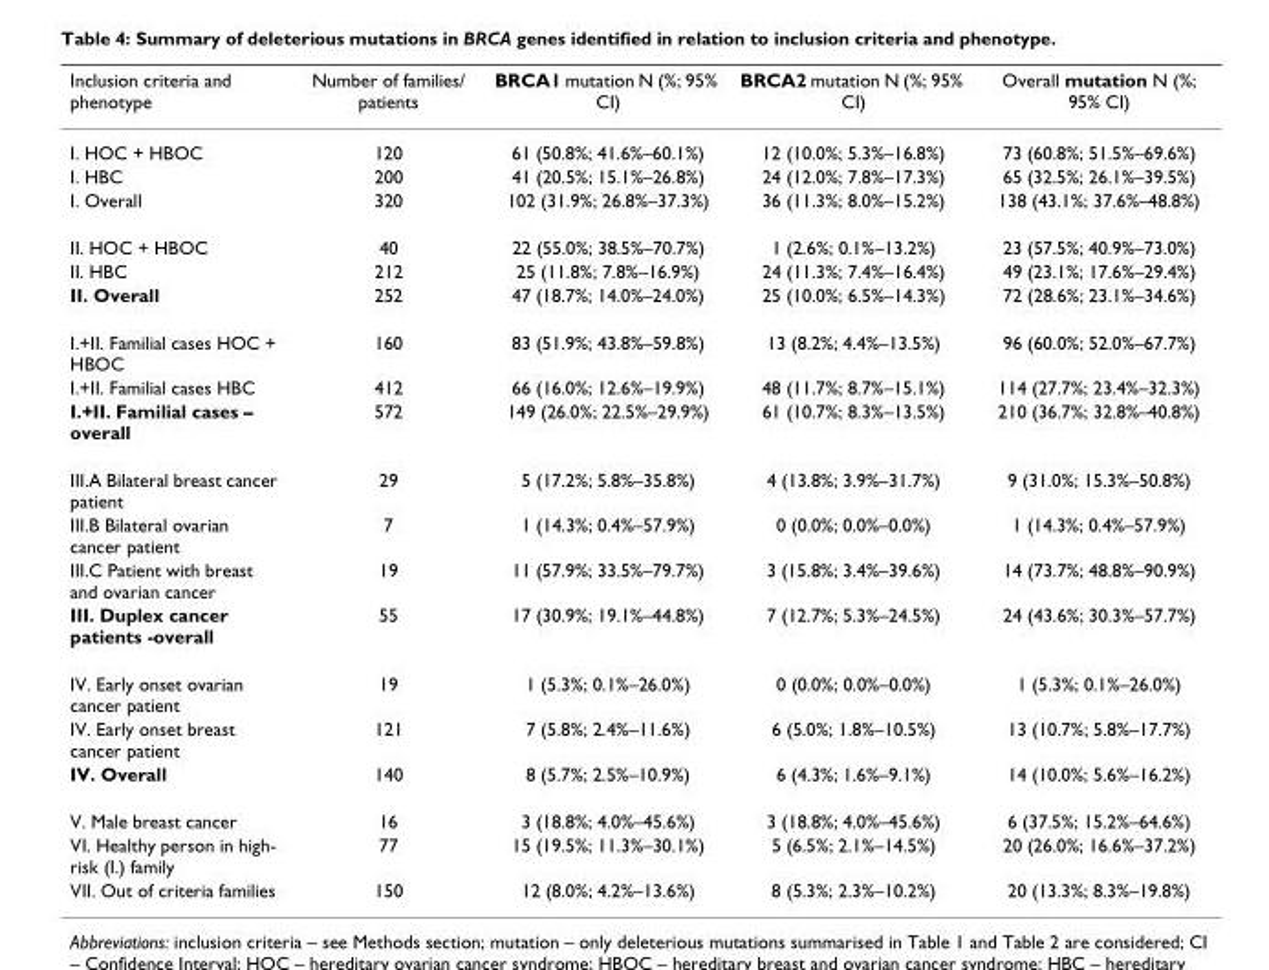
<table><thead><tr><td>Inclusion criteria and phenotype</td><td>Number of families/ patients</td><td>BRCA1 mutation N (%; 95% CI)</td><td>BRCA2 mutation N (%; 95% CI)</td><td>Overall mutation N (%; 95% CI)</td></tr></thead><tbody><tr><td>I. HOC + HBOC</td><td>120</td><td>61 (50.8%; 41.6%–60.1%)</td><td>12 (10.0%; 5.3%–16.8%)</td><td>73 (60.8%; 51.5%–69.6%)</td></tr><tr><td>I. HBC</td><td>200</td><td>41 (20.5%; 15.1%–26.8%)</td><td>24 (12.0%; 7.8%–17.3%)</td><td>65 (32.5%; 26.1%–39.5%)</td></tr><tr><td>I. Overall</td><td>320</td><td>102 (31.9%; 26.8%–37.3%)</td><td>36 (11.3%; 8.0%–15.2%)</td><td>138 (43.1%; 37.6%–48.8%)</td></tr><tr><td>II. HOC + HBOC</td><td>40</td><td>22 (55.0%; 38.5%–70.7%)</td><td>1 (2.6%; 0.1%–13.2%)</td><td>23 (57.5%; 40.9%–73.0%)</td></tr><tr><td>II. HBC</td><td>212</td><td>25 (11.8%; 7.8%–16.9%)</td><td>24 (11.3%; 7.4%–16.4%)</td><td>49 (23.1%; 17.6%–29.4%)</td></tr><tr><td>II. Overall</td><td>252</td><td>47 (18.7%; 14.0%–24.0%)</td><td>25 (10.0%; 6.5%–14.3%)</td><td>72 (28.6%; 23.1%–34.6%)</td></tr><tr><td>I.+II. Familial cases HOC + HBOC</td><td>160</td><td>83 (51.9%; 43.8%–59.8%)</td><td>13 (8.2%; 4.4%–13.5%)</td><td>96 (60.0%; 52.0%–67.7%)</td></tr><tr><td>I.+II. Familial cases HBC</td><td>412</td><td>66 (16.0%; 12.6%–19.9%)</td><td>48 (11.7%; 8.7%–15.1%)</td><td>114 (27.7%; 23.4%–32.3%)</td></tr><tr><td>I.+II. Familial cases – overall</td><td>572</td><td>149 (26.0%; 22.5%–29.9%)</td><td>61 (10.7%; 8.3%–13.5%)</td><td>210 (36.7%; 32.8%–40.8%)</td></tr><tr><td>III.A Bilateral breast cancer patient</td><td>29</td><td>5 (17.2%; 5.8%–35.8%)</td><td>4 (13.8%; 3.9%–31.7%)</td><td>9 (31.0%; 15.3%–50.8%)</td></tr><tr><td>III.B Bilateral ovarian cancer patient</td><td>7</td><td>1 (14.3%; 0.4%–57.9%)</td><td>0 (0.0%; 0.0%–0.0%)</td><td>1 (14.3%; 0.4%–57.9%)</td></tr><tr><td>III.C Patient with breast and ovarian cancer</td><td>19</td><td>11 (57.9%; 33.5%–79.7%)</td><td>3 (15.8%; 3.4%–39.6%)</td><td>14 (73.7%; 48.8%–90.9%)</td></tr><tr><td>III. Duplex cancer patients -overall</td><td>55</td><td>17 (30.9%; 19.1%–44.8%)</td><td>7 (12.7%; 5.3%–24.5%)</td><td>24 (43.6%; 30.3%–57.7%)</td></tr><tr><td>IV. Early onset ovarian cancer patient</td><td>19</td><td>1 (5.3%; 0.1%–26.0%)</td><td>0 (0.0%; 0.0%–0.0%)</td><td>1 (5.3%; 0.1%–26.0%)</td></tr><tr><td>IV. Early onset breast cancer patient</td><td>121</td><td>7 (5.8%; 2.4%–11.6%)</td><td>6 (5.0%; 1.8%–10.5%)</td><td>13 (10.7%; 5.8%–17.7%)</td></tr><tr><td>IV. Overall</td><td>140</td><td>8 (5.7%; 2.5%–10.9%)</td><td>6 (4.3%; 1.6%–9.1%)</td><td>14 (10.0%; 5.6%–16.2%)</td></tr><tr><td>V. Male breast cancer</td><td>16</td><td>3 (18.8%; 4.0%–45.6%)</td><td>3 (18.8%; 4.0%–45.6%)</td><td>6 (37.5%; 15.2%–64.6%)</td></tr><tr><td>VI. Healthy person in high- risk (I.) family</td><td>77</td><td>15 (19.5%; 11.3%–30.1%)</td><td>5 (6.5%; 2.1%–14.5%)</td><td>20 (26.0%; 16.6%–37.2%)</td></tr><tr><td>VII. Out of criteria families</td><td>150</td><td>12 (8.0%; 4.2%–13.6%)</td><td>8 (5.3%; 2.3%–10.2%)</td><td>20 (13.3%; 8.3%–19.8%)</td></tr></tbody></table>